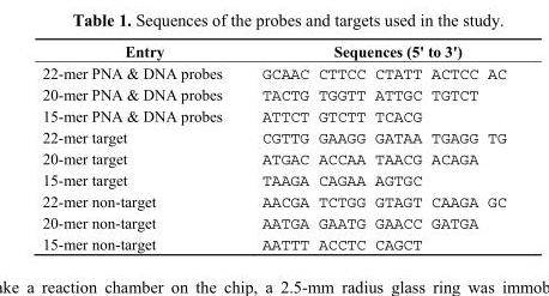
<table><thead><tr><td>Entry</td><td>Sequences (5&#x27; to 3&#x27;)</td></tr></thead><tbody><tr><td>22-mer PNA &amp; DNA probes</td><td>GCAAC CTTCC CTATT ACTCC AC</td></tr><tr><td>20-mer PNA &amp; DNA probes</td><td>TACTG TGGTT ATTGC TGTCT</td></tr><tr><td>15-mer PNA &amp; DNA probes</td><td>ATTCT GTCTT TCACG</td></tr><tr><td>22-mer target</td><td>CGTTG GAAGG GATAA TGAGG TG</td></tr><tr><td>20-mer target</td><td>ATGAC ACCAA TAACG ACAGA</td></tr><tr><td>15-mer target</td><td>TAAGA CAGAA AGTGC</td></tr><tr><td>22-mer non-target</td><td>AACGA TCTGG GTAGT CAAGA GC</td></tr><tr><td>20-mer non-target</td><td>AATGA GAATG GAACC GATGA</td></tr><tr><td>15-mer non-target</td><td>AATTT ACCTC CAGCT</td></tr></tbody></table>